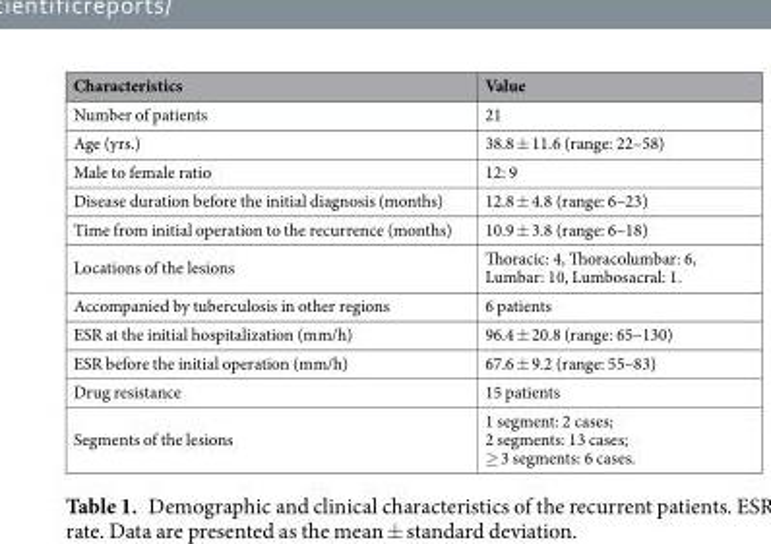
<table><thead><tr><td>Characteristics</td><td>Value</td></tr></thead><tbody><tr><td>Number of patients</td><td>21</td></tr><tr><td>Age (yrs.)</td><td>38.8 ± 11.6 (range: 22–58)</td></tr><tr><td>Male to female ratio</td><td>12: 9</td></tr><tr><td>Disease duration before the initial diagnosis (months)</td><td>12.8 ± 4.8 (range: 6–23)</td></tr><tr><td>Time from initial operation to the recurrence (months)</td><td>10.9 ± 3.8 (range: 6–18)</td></tr><tr><td>Locations of the lesions</td><td>Thoracic: 4, Thoracolumbar: 6, Lumbar: 10, Lumbosacral: 1.</td></tr><tr><td>Accompanied by tuberculosis in other regions</td><td>6 patients</td></tr><tr><td>ESR at the initial hospitalization (mm/h)</td><td>96.4 ± 20.8 (range: 65–130)</td></tr><tr><td>ESR before the initial operation (mm/h)</td><td>67.6 ± 9.2 (range: 55–83)</td></tr><tr><td>Drug resistance</td><td>15 patients</td></tr><tr><td>Segments of the lesions</td><td>1 segment: 2 cases; 2 segments: 13 cases; ≥ 3 segments: 6 cases.</td></tr></tbody></table>